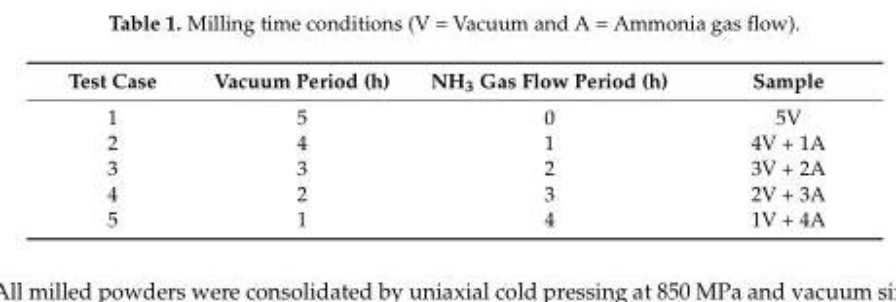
<table><thead><tr><td>Test Case</td><td>Vacuum Period (h)</td><td>NH<sub>3</sub> Gas Flow Period (h)</td><td>Sample</td></tr></thead><tbody><tr><td>1</td><td>5</td><td>0</td><td>5V</td></tr><tr><td>2</td><td>4</td><td>1</td><td>4V + 1A</td></tr><tr><td>3</td><td>3</td><td>2</td><td>3V + 2A</td></tr><tr><td>4</td><td>2</td><td>3</td><td>2V + 3A</td></tr><tr><td>5</td><td>1</td><td>4</td><td>1V + 4A</td></tr></tbody></table>